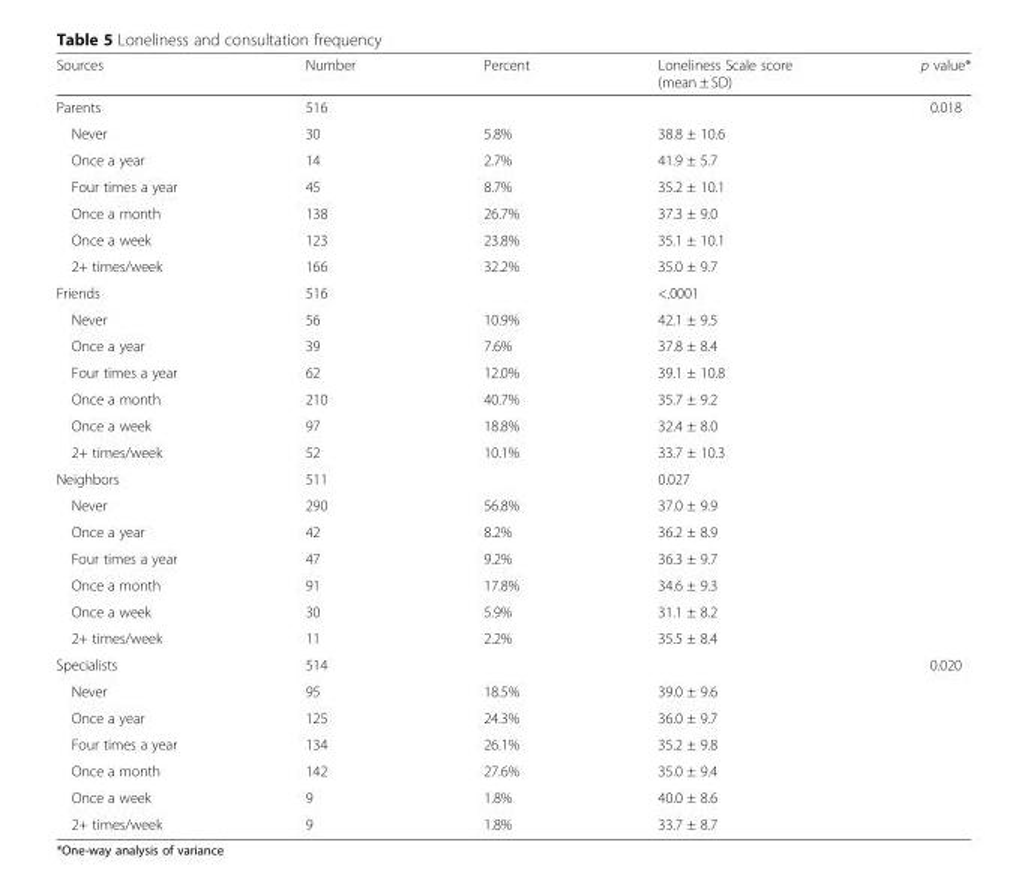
<table><thead><tr><td>Sources</td><td>Number</td><td>Percent</td><td>Loneliness Scale score (mean ± SD)</td><td>p value*</td></tr></thead><tbody><tr><td>Parents</td><td>516</td><td colspan="2"></td><td>0.018</td></tr><tr><td>Never</td><td>30</td><td>5.8%</td><td>38.8 ± 10.6</td><td></td></tr><tr><td>Once a year</td><td>14</td><td>2.7%</td><td>41.9 ± 5.7</td><td></td></tr><tr><td>Four times a year</td><td>45</td><td>8.7%</td><td>35.2 ± 10.1</td><td></td></tr><tr><td>Once a month</td><td>138</td><td>26.7%</td><td>37.3 ± 9.0</td><td></td></tr><tr><td>Once a week</td><td>123</td><td>23.8%</td><td>35.1 ± 10.1</td><td></td></tr><tr><td>2+ times/week</td><td>166</td><td>32.2%</td><td>35.0 ± 9.7</td><td></td></tr><tr><td>Friends</td><td>516</td><td></td><td colspan="2">&lt;.0001</td></tr><tr><td>Never</td><td>56</td><td>10.9%</td><td>42.1 ± 9.5</td><td></td></tr><tr><td>Once a year</td><td>39</td><td>7.6%</td><td>37.8 ± 8.4</td><td></td></tr><tr><td>Four times a year</td><td>62</td><td>12.0%</td><td>39.1 ± 10.8</td><td></td></tr><tr><td>Once a month</td><td>210</td><td>40.7%</td><td>35.7 ± 9.2</td><td></td></tr><tr><td>Once a week</td><td>97</td><td>18.8%</td><td>32.4 ± 8.0</td><td></td></tr><tr><td>2+ times/week</td><td>52</td><td>10.1%</td><td>33.7 ± 10.3</td><td></td></tr><tr><td>Neighbors</td><td>511</td><td></td><td colspan="2">0.027</td></tr><tr><td>Never</td><td>290</td><td>56.8%</td><td>37.0 ± 9.9</td><td></td></tr><tr><td>Once a year</td><td>42</td><td>8.2%</td><td>36.2 ± 8.9</td><td></td></tr><tr><td>Four times a year</td><td>47</td><td>9.2%</td><td>36.3 ± 9.7</td><td></td></tr><tr><td>Once a month</td><td>91</td><td>17.8%</td><td>34.6 ± 9.3</td><td></td></tr><tr><td>Once a week</td><td>30</td><td>5.9%</td><td>31.1 ± 8.2</td><td></td></tr><tr><td>2+ times/week</td><td>11</td><td>2.2%</td><td>35.5 ± 8.4</td><td></td></tr><tr><td>Specialists</td><td>514</td><td></td><td></td><td>0.020</td></tr><tr><td>Never</td><td>95</td><td>18.5%</td><td>39.0 ± 9.6</td><td></td></tr><tr><td>Once a year</td><td>125</td><td>24.3%</td><td>36.0 ± 9.7</td><td></td></tr><tr><td>Four times a year</td><td>134</td><td>26.1%</td><td>35.2 ± 9.8</td><td></td></tr><tr><td>Once a month</td><td>142</td><td>27.6%</td><td>35.0 ± 9.4</td><td></td></tr><tr><td>Once a week</td><td>9</td><td>1.8%</td><td>40.0 ± 8.6</td><td></td></tr><tr><td>2+ times/week</td><td>9</td><td>1.8%</td><td>33.7 ± 8.7</td><td></td></tr></tbody></table>